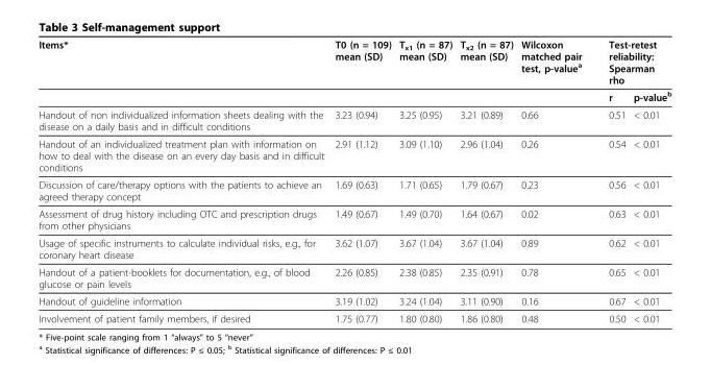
<table><thead><tr><td rowspan="2">Items*</td><td rowspan="2">T0 (n = 109) mean (SD)</td><td rowspan="2">T<sub>x1</sub> (n = 87) mean (SD)</td><td rowspan="2">T<sub>x2</sub> (n = 87) mean (SD)</td><td rowspan="2">Wilcoxon matched pair test, p-value<sup>a</sup></td><td colspan="2">Test-retest reliability: Spearman rho</td></tr><tr><td>r</td><td>p-value<sup>b</sup></td></tr></thead><tbody><tr><td>Handout of non individualized information sheets dealing with the disease on a daily basis and in difficult conditions</td><td>3.23 (0.94)</td><td>3.25 (0.95)</td><td>3.21 (0.89)</td><td>0.66</td><td>0.51</td><td>&lt; 0.01</td></tr><tr><td>Handout of an individualized treatment plan with information on how to deal with the disease on an every day basis and in difficult conditions</td><td>2.91 (1.12)</td><td>3.09 (1.10)</td><td>2.96 (1.04)</td><td>0.26</td><td>0.54</td><td>&lt; 0.01</td></tr><tr><td>Discussion of care/therapy options with the patients to achieve an agreed therapy concept</td><td>1.69 (0.63)</td><td>1.71 (0.65)</td><td>1.79 (0.67)</td><td>0.23</td><td>0.56</td><td>&lt; 0.01</td></tr><tr><td>Assessment of drug history including OTC and prescription drugs from other physicians</td><td>1.49 (0.67)</td><td>1.49 (0.70)</td><td>1.64 (0.67)</td><td>0.02</td><td>0.63</td><td>&lt; 0.01</td></tr><tr><td>Usage of specific instruments to calculate individual risks, e.g., for coronary heart disease</td><td>3.62 (1.07)</td><td>3.67 (1.04)</td><td>3.67 (1.04)</td><td>0.89</td><td>0.62</td><td>&lt; 0.01</td></tr><tr><td>Handout of a patient-booklets for documentation, e.g., of blood glucose or pain levels</td><td>2.26 (0.85)</td><td>2.38 (0.85)</td><td>2.35 (0.91)</td><td>0.78</td><td>0.65</td><td>&lt; 0.01</td></tr><tr><td>Handout of guideline information</td><td>3.19 (1.02)</td><td>3.24 (1.04)</td><td>3.11 (0.90)</td><td>0.16</td><td>0.67</td><td>&lt; 0.01</td></tr><tr><td>Involvement of patient family members, if desired</td><td>1.75 (0.77)</td><td>1.80 (0.80)</td><td>1.86 (0.80)</td><td>0.48</td><td>0.50</td><td>&lt; 0.01</td></tr></tbody></table>